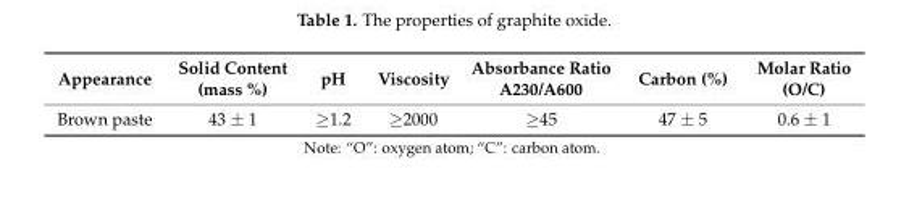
<table><thead><tr><td>Appearance</td><td>Solid Content (mass %)</td><td>pH</td><td>Viscosity</td><td>Absorbance Ratio A230/A600</td><td>Carbon (%)</td><td>Molar Ratio (O/C)</td></tr></thead><tbody><tr><td>Brown paste</td><td>43 ± 1</td><td>≥1.2</td><td>≥2000</td><td>≥45</td><td>47 ± 5</td><td>0.6 ± 1</td></tr></tbody></table>